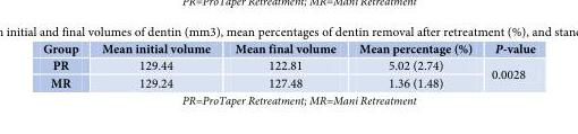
<table><thead><tr><td>Group</td><td>Mean initial volume</td><td>Mean final volume</td><td>Mean percentage (%)</td><td>P-value</td></tr></thead><tbody><tr><td>PR</td><td>129.44</td><td>122.81</td><td>5.02 (2.74)</td><td rowspan="2">0.0028</td></tr><tr><td>MR</td><td>129.24</td><td>127.48</td><td>1.36 (1.48)</td></tr></tbody></table>